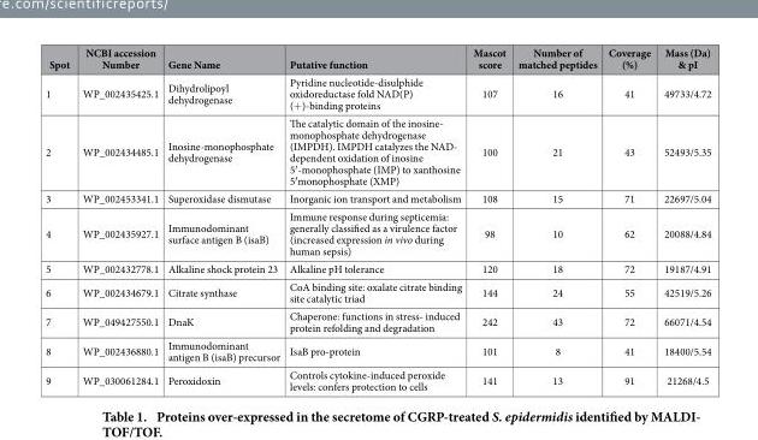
<table><thead><tr><td>Spot</td><td>NCBI accession Number</td><td>Gene Name</td><td>Putative function</td><td>Mascot score</td><td>Number of matched peptides</td><td>Coverage (%)</td><td>Mass (Da) &amp; pI</td></tr></thead><tbody><tr><td>1</td><td>WP_002435425.1</td><td>Dihydrolipoyl dehydrogenase</td><td>Pyridine nucleotide-disulphide oxidoreductase fold NAD(P) (+ )-binding proteins</td><td>107</td><td>16</td><td>41</td><td>49733/4.72</td></tr><tr><td>2</td><td>WP_002434485.1</td><td>Inosine-monophosphate dehydrogenase</td><td>The catalytic domain of the inosine- monophosphate dehydrogenase (IMPDH). IMPDH catalyzes the NAD- dependent oxidation of inosine 5′ -monophosphate (IMP) to xanthosine 5′ monophosphate (XMP)</td><td>100</td><td>21</td><td>43</td><td>52493/5.35</td></tr><tr><td>3</td><td>WP_002453341.1</td><td>Superoxidase dismutase</td><td>Inorganic ion transport and metabolism</td><td>108</td><td>15</td><td>71</td><td>22697/5.04</td></tr><tr><td>4</td><td>WP_002435927.1</td><td>Immunodominant surface antigen B (isaB)</td><td>Immune response during septicemia: generally classified as a virulence factor (increased expression in vivo during human sepsis)</td><td>98</td><td>10</td><td>62</td><td>20088/4.84</td></tr><tr><td>5</td><td>WP_002432778.1</td><td>Alkaline shock protein 23</td><td>Alkaline pH tolerance</td><td>120</td><td>18</td><td>72</td><td>19187/4.91</td></tr><tr><td>6</td><td>WP_002434679.1</td><td>Citrate synthase</td><td>CoA binding site: oxalate citrate binding site catalytic triad</td><td>144</td><td>24</td><td>55</td><td>42519/5.26</td></tr><tr><td>7</td><td>WP_049427550.1</td><td>DnaK</td><td>Chaperone: functions in stress- induced protein refolding and degradation</td><td>242</td><td>43</td><td>72</td><td>66071/4.54</td></tr><tr><td>8</td><td>WP_002436880.1</td><td>Immunodominant antigen B (isaB) precursor</td><td>IsaB pro-protein</td><td>101</td><td>8</td><td>41</td><td>18400/5.54</td></tr><tr><td>9</td><td>WP_030061284.1</td><td>Peroxidoxin</td><td>Controls cytokine-induced peroxide levels: confers protection to cells</td><td>141</td><td>13</td><td>91</td><td>21268/4.5</td></tr></tbody></table>